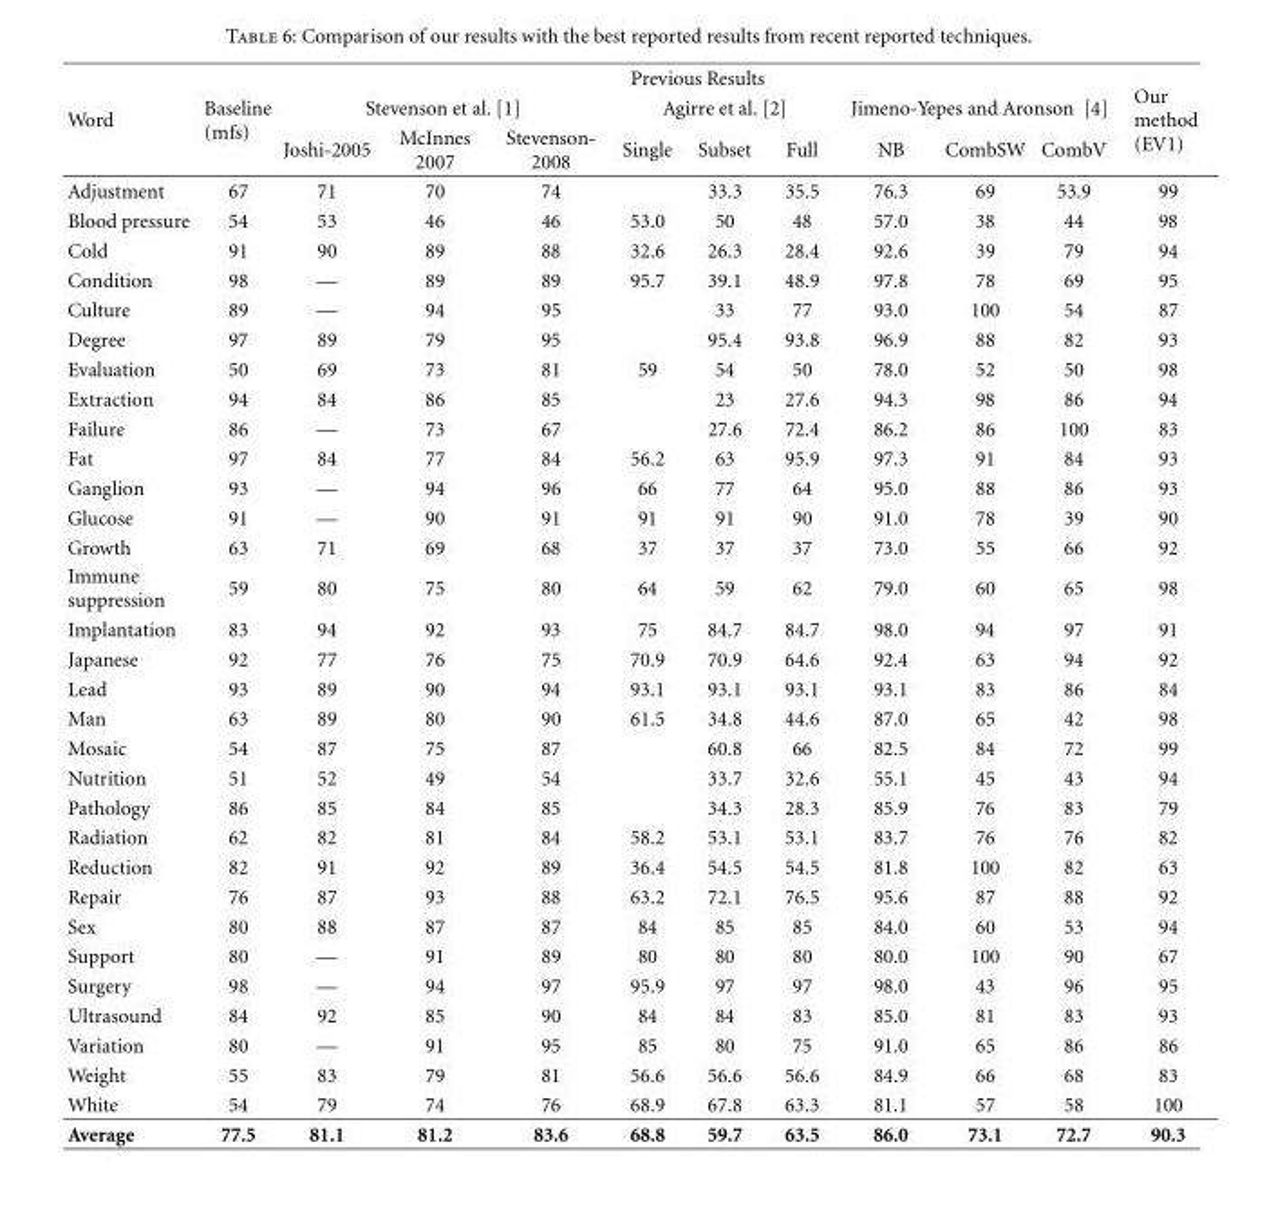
<table><thead><tr><td rowspan="3">Word</td><td rowspan="3">Baseline (mfs)</td><td colspan="9">Previous Results</td><td rowspan="3">Our method (EV1)</td></tr><tr><td colspan="3">Stevenson et al. [1]</td><td colspan="3">Agirre et al. [2]</td><td colspan="3">Jimeno-Yepes and Aronson [4]</td></tr><tr><td>Joshi-2005</td><td>McInnes 2007</td><td>Stevenson- 2008</td><td>Single</td><td>Subset</td><td>Full</td><td>NB</td><td>CombSW</td><td>CombV</td></tr></thead><tbody><tr><td>Adjustment</td><td>67</td><td>71</td><td>70</td><td>74</td><td></td><td>33.3</td><td>35.5</td><td>76.3</td><td>69</td><td>53.9</td><td>99</td></tr><tr><td>Blood pressure</td><td>54</td><td>53</td><td>46</td><td>46</td><td>53.0</td><td>50</td><td>48</td><td>57.0</td><td>38</td><td>44</td><td>98</td></tr><tr><td>Cold</td><td>91</td><td>90</td><td>89</td><td>88</td><td>32.6</td><td>26.3</td><td>28.4</td><td>92.6</td><td>39</td><td>79</td><td>94</td></tr><tr><td>Condition</td><td>98</td><td>—</td><td>89</td><td>89</td><td>95.7</td><td>39.1</td><td>48.9</td><td>97.8</td><td>78</td><td>69</td><td>95</td></tr><tr><td>Culture</td><td>89</td><td>—</td><td>94</td><td>95</td><td></td><td>33</td><td>77</td><td>93.0</td><td>100</td><td>54</td><td>87</td></tr><tr><td>Degree</td><td>97</td><td>89</td><td>79</td><td>95</td><td></td><td>95.4</td><td>93.8</td><td>96.9</td><td>88</td><td>82</td><td>93</td></tr><tr><td>Evaluation</td><td>50</td><td>69</td><td>73</td><td>81</td><td>59</td><td>54</td><td>50</td><td>78.0</td><td>52</td><td>50</td><td>98</td></tr><tr><td>Extraction</td><td>94</td><td>84</td><td>86</td><td>85</td><td></td><td>23</td><td>27.6</td><td>94.3</td><td>98</td><td>86</td><td>94</td></tr><tr><td>Failure</td><td>86</td><td>—</td><td>73</td><td>67</td><td></td><td>27.6</td><td>72.4</td><td>86.2</td><td>86</td><td>100</td><td>83</td></tr><tr><td>Fat</td><td>97</td><td>84</td><td>77</td><td>84</td><td>56.2</td><td>63</td><td>95.9</td><td>97.3</td><td>91</td><td>84</td><td>93</td></tr><tr><td>Ganglion</td><td>93</td><td>—</td><td>94</td><td>96</td><td>66</td><td>77</td><td>64</td><td>95.0</td><td>88</td><td>86</td><td>93</td></tr><tr><td>Glucose</td><td>91</td><td>—</td><td>90</td><td>91</td><td>91</td><td>91</td><td>90</td><td>91.0</td><td>78</td><td>39</td><td>90</td></tr><tr><td>Growth</td><td>63</td><td>71</td><td>69</td><td>68</td><td>37</td><td>37</td><td>37</td><td>73.0</td><td>55</td><td>66</td><td>92</td></tr><tr><td>Immune suppression</td><td>59</td><td>80</td><td>75</td><td>80</td><td>64</td><td>59</td><td>62</td><td>79.0</td><td>60</td><td>65</td><td>98</td></tr><tr><td>Implantation</td><td>83</td><td>94</td><td>92</td><td>93</td><td>75</td><td>84.7</td><td>84.7</td><td>98.0</td><td>94</td><td>97</td><td>91</td></tr><tr><td>Japanese</td><td>92</td><td>77</td><td>76</td><td>75</td><td>70.9</td><td>70.9</td><td>64.6</td><td>92.4</td><td>63</td><td>94</td><td>92</td></tr><tr><td>Lead</td><td>93</td><td>89</td><td>90</td><td>94</td><td>93.1</td><td>93.1</td><td>93.1</td><td>93.1</td><td>83</td><td>86</td><td>84</td></tr><tr><td>Man</td><td>63</td><td>89</td><td>80</td><td>90</td><td>61.5</td><td>34.8</td><td>44.6</td><td>87.0</td><td>65</td><td>42</td><td>98</td></tr><tr><td>Mosaic</td><td>54</td><td>87</td><td>75</td><td>87</td><td></td><td>60.8</td><td>66</td><td>82.5</td><td>84</td><td>72</td><td>99</td></tr><tr><td>Nutrition</td><td>51</td><td>52</td><td>49</td><td>54</td><td></td><td>33.7</td><td>32.6</td><td>55.1</td><td>45</td><td>43</td><td>94</td></tr><tr><td>Pathology</td><td>86</td><td>85</td><td>84</td><td>85</td><td></td><td>34.3</td><td>28.3</td><td>85.9</td><td>76</td><td>83</td><td>79</td></tr><tr><td>Radiation</td><td>62</td><td>82</td><td>81</td><td>84</td><td>58.2</td><td>53.1</td><td>53.1</td><td>83.7</td><td>76</td><td>76</td><td>82</td></tr><tr><td>Reduction</td><td>82</td><td>91</td><td>92</td><td>89</td><td>36.4</td><td>54.5</td><td>54.5</td><td>81.8</td><td>100</td><td>82</td><td>63</td></tr><tr><td>Repair</td><td>76</td><td>87</td><td>93</td><td>88</td><td>63.2</td><td>72.1</td><td>76.5</td><td>95.6</td><td>87</td><td>88</td><td>92</td></tr><tr><td>Sex</td><td>80</td><td>88</td><td>87</td><td>87</td><td>84</td><td>85</td><td>85</td><td>84.0</td><td>60</td><td>53</td><td>94</td></tr><tr><td>Support</td><td>80</td><td>—</td><td>91</td><td>89</td><td>80</td><td>80</td><td>80</td><td>80.0</td><td>100</td><td>90</td><td>67</td></tr><tr><td>Surgery</td><td>98</td><td>—</td><td>94</td><td>97</td><td>95.9</td><td>97</td><td>97</td><td>98.0</td><td>43</td><td>96</td><td>95</td></tr><tr><td>Ultrasound</td><td>84</td><td>92</td><td>85</td><td>90</td><td>84</td><td>84</td><td>83</td><td>85.0</td><td>81</td><td>83</td><td>93</td></tr><tr><td>Variation</td><td>80</td><td>—</td><td>91</td><td>95</td><td>85</td><td>80</td><td>75</td><td>91.0</td><td>65</td><td>86</td><td>86</td></tr><tr><td>Weight</td><td>55</td><td>83</td><td>79</td><td>81</td><td>56.6</td><td>56.6</td><td>56.6</td><td>84.9</td><td>66</td><td>68</td><td>83</td></tr><tr><td>White</td><td>54</td><td>79</td><td>74</td><td>76</td><td>68.9</td><td>67.8</td><td>63.3</td><td>81.1</td><td>57</td><td>58</td><td>100</td></tr><tr><td>Average</td><td>77.5</td><td>81.1</td><td>81.2</td><td>83.6</td><td>68.8</td><td>59.7</td><td>63.5</td><td>86.0</td><td>73.1</td><td>72.7</td><td>90.3</td></tr></tbody></table>